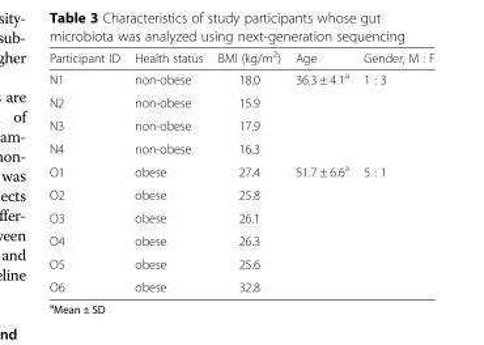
<table><thead><tr><td>Participant ID</td><td>Health status</td><td>BMI (kg/m<sup>2</sup>)</td><td>Age</td><td>Gender, M : F</td></tr></thead><tbody><tr><td>N1</td><td>non-obese</td><td>18.0</td><td rowspan="4">36.3 ± 4.1<sup>a</sup></td><td rowspan="4">1 : 3</td></tr><tr><td>N2</td><td>non-obese</td><td>15.9</td></tr><tr><td>N3</td><td>non-obese</td><td>17.9</td></tr><tr><td>N4</td><td>non-obese</td><td>16.3</td></tr><tr><td>O1</td><td>obese</td><td>27.4</td><td rowspan="6">51.7 ± 6.6<sup>a</sup></td><td rowspan="6">5 : 1</td></tr><tr><td>O2</td><td>obese</td><td>25.8</td></tr><tr><td>O3</td><td>obese</td><td>26.1</td></tr><tr><td>O4</td><td>obese</td><td>26.3</td></tr><tr><td>O5</td><td>obese</td><td>25.6</td></tr><tr><td>O6</td><td>obese</td><td>32.8</td></tr></tbody></table>